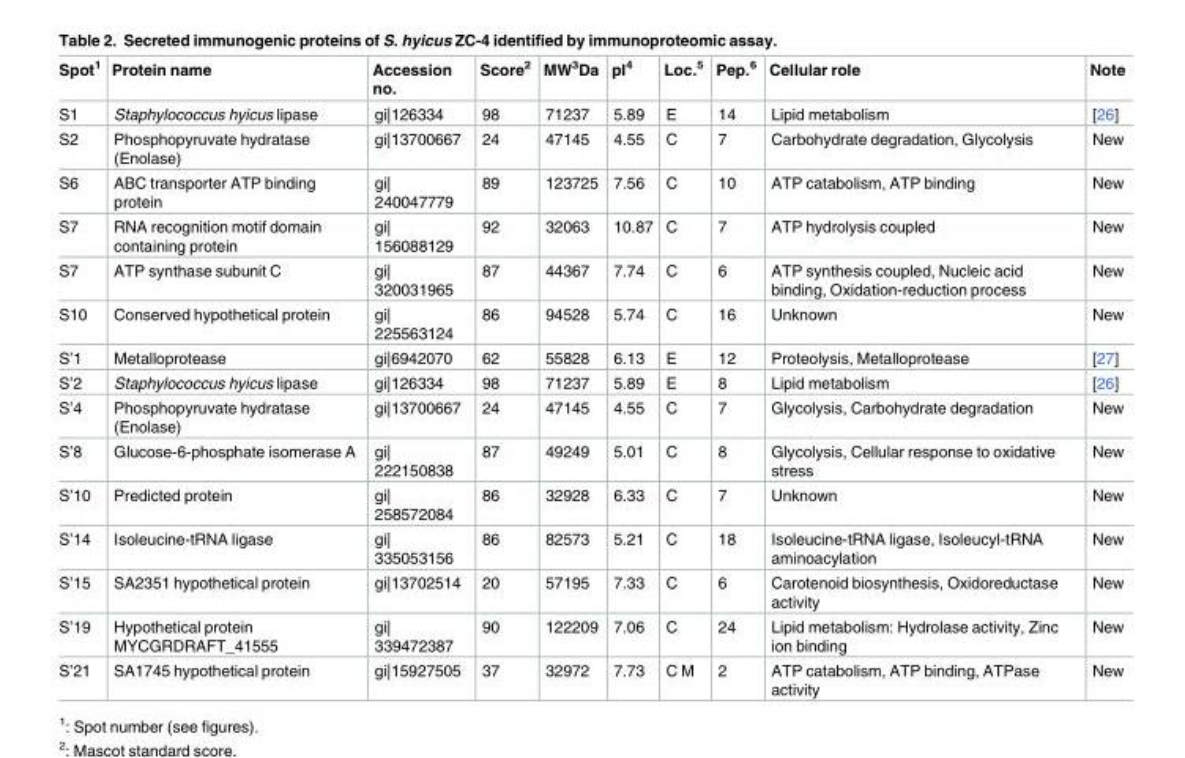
<table><thead><tr><td>Spot<sup>1</sup></td><td>Protein name</td><td>Accession no.</td><td>Score<sup>2</sup></td><td>MW<sup>3</sup>Da</td><td>pI<sup>4</sup></td><td>Loc.<sup>5</sup></td><td>Pep.<sup>6</sup></td><td>Cellular role</td><td>Note</td></tr></thead><tbody><tr><td>S1</td><td>Staphylococcus hyicus lipase</td><td>gi|126334</td><td>98</td><td>71237</td><td>5.89</td><td>E</td><td>14</td><td>Lipid metabolism</td><td>[26]</td></tr><tr><td>S2</td><td>Phosphopyruvate hydratase (Enolase)</td><td>gi|13700667</td><td>24</td><td>47145</td><td>4.55</td><td>C</td><td>7</td><td>Carbohydrate degradation, Glycolysis</td><td>New</td></tr><tr><td>S6</td><td>ABC transporter ATP binding protein</td><td>gi| 240047779</td><td>89</td><td>123725</td><td>7.56</td><td>C</td><td>10</td><td>ATP catabolism, ATP binding</td><td>New</td></tr><tr><td>S7</td><td>RNA recognition motif domain containing protein</td><td>gi| 156088129</td><td>92</td><td>32063</td><td>10.87</td><td>C</td><td>7</td><td>ATP hydrolysis coupled</td><td>New</td></tr><tr><td>S7</td><td>ATP synthase subunit C</td><td>gi| 320031965</td><td>87</td><td>44367</td><td>7.74</td><td>C</td><td>6</td><td>ATP synthesis coupled, Nucleic acid binding, Oxidation-reduction process</td><td>New</td></tr><tr><td>S10</td><td>Conserved hypothetical protein</td><td>gi| 225563124</td><td>86</td><td>94528</td><td>5.74</td><td>C</td><td>16</td><td>Unknown</td><td>New</td></tr><tr><td>S’1</td><td>Metalloprotease</td><td>gi|6942070</td><td>62</td><td>55828</td><td>6.13</td><td>E</td><td>12</td><td>Proteolysis, Metalloprotease</td><td>[27]</td></tr><tr><td>S’2</td><td>Staphylococcus hyicus lipase</td><td>gi|126334</td><td>98</td><td>71237</td><td>5.89</td><td>E</td><td>8</td><td>Lipid metabolism</td><td>[26]</td></tr><tr><td>S’4</td><td>Phosphopyruvate hydratase (Enolase)</td><td>gi|13700667</td><td>24</td><td>47145</td><td>4.55</td><td>C</td><td>7</td><td>Glycolysis, Carbohydrate degradation</td><td>New</td></tr><tr><td>S’8</td><td>Glucose-6-phosphate isomerase A</td><td>gi| 222150838</td><td>87</td><td>49249</td><td>5.01</td><td>C</td><td>8</td><td>Glycolysis, Cellular response to oxidative stress</td><td>New</td></tr><tr><td>S’10</td><td>Predicted protein</td><td>gi| 258572084</td><td>86</td><td>32928</td><td>6.33</td><td>C</td><td>7</td><td>Unknown</td><td>New</td></tr><tr><td>S’14</td><td>Isoleucine-tRNA ligase</td><td>gi| 335053156</td><td>86</td><td>82573</td><td>5.21</td><td>C</td><td>18</td><td>Isoleucine-tRNA ligase, Isoleucyl-tRNA aminoacylation</td><td>New</td></tr><tr><td>S’15</td><td>SA2351 hypothetical protein</td><td>gi|13702514</td><td>20</td><td>57195</td><td>7.33</td><td>C</td><td>6</td><td>Carotenoid biosynthesis, Oxidoreductase activity</td><td>New</td></tr><tr><td>S’19</td><td>Hypothetical protein MYCGRDRAFT_41555</td><td>gi| 339472387</td><td>90</td><td>122209</td><td>7.06</td><td>C</td><td>24</td><td>Lipid metabolism: Hydrolase activity, Zinc ion binding</td><td>New</td></tr><tr><td>S’21</td><td>SA1745 hypothetical protein</td><td>gi|15927505</td><td>37</td><td>32972</td><td>7.73</td><td>C M</td><td>2</td><td>ATP catabolism, ATP binding, ATPase activity</td><td>New</td></tr></tbody></table>